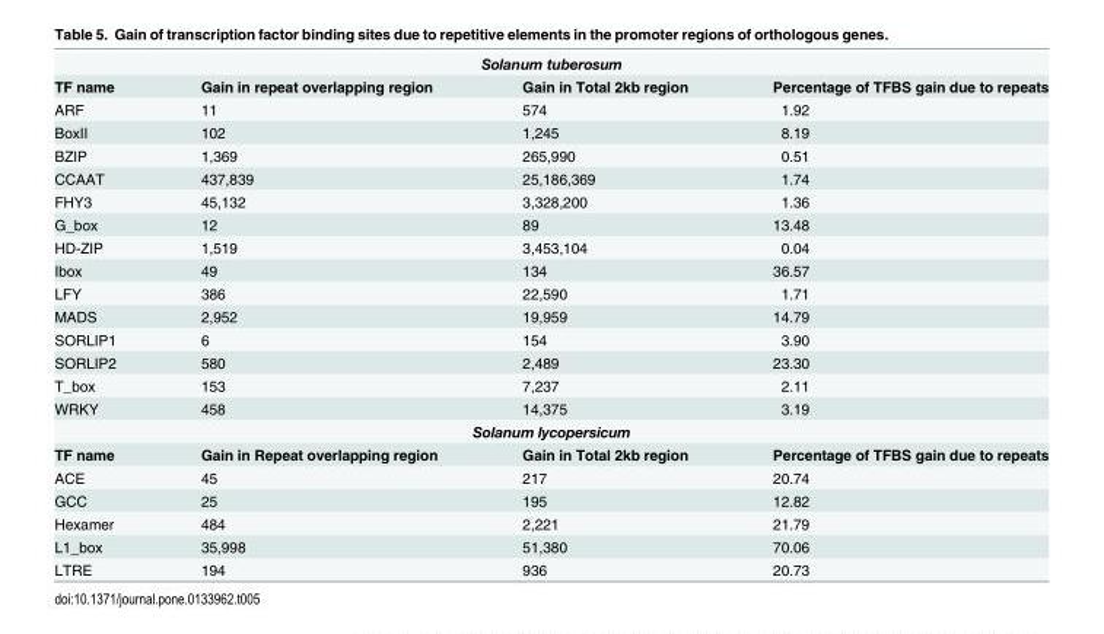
<table><tbody><tr><td colspan="4">Solanum tuberosum</td></tr><tr><td>TF name</td><td>Gain in repeat overlapping region</td><td>Gain in Total 2kb region</td><td>Percentage of TFBS gain due to repeats</td></tr><tr><td>ARF</td><td>11</td><td>574</td><td>1.92</td></tr><tr><td>BoxII</td><td>102</td><td>1,245</td><td>8.19</td></tr><tr><td>BZIP</td><td>1,369</td><td>265,990</td><td>0.51</td></tr><tr><td>CCAAT</td><td>437,839</td><td>25,186,369</td><td>1.74</td></tr><tr><td>FHY3</td><td>45,132</td><td>3,328,200</td><td>1.36</td></tr><tr><td>G_box</td><td>12</td><td>89</td><td>13.48</td></tr><tr><td>HD-ZIP</td><td>1,519</td><td>3,453,104</td><td>0.04</td></tr><tr><td>Ibox</td><td>49</td><td>134</td><td>36.57</td></tr><tr><td>LFY</td><td>386</td><td>22,590</td><td>1.71</td></tr><tr><td>MADS</td><td>2,952</td><td>19,959</td><td>14.79</td></tr><tr><td>SORLIP1</td><td>6</td><td>154</td><td>3.90</td></tr><tr><td>SORLIP2</td><td>580</td><td>2,489</td><td>23.30</td></tr><tr><td>T_box</td><td>153</td><td>7,237</td><td>2.11</td></tr><tr><td>WRKY</td><td>458</td><td>14,375</td><td>3.19</td></tr><tr><td colspan="4">Solanum lycopersicum</td></tr><tr><td>TF name</td><td>Gain in Repeat overlapping region</td><td>Gain in Total 2kb region</td><td>Percentage of TFBS gain due to repeats</td></tr><tr><td>ACE</td><td>45</td><td>217</td><td>20.74</td></tr><tr><td>GCC</td><td>25</td><td>195</td><td>12.82</td></tr><tr><td>Hexamer</td><td>484</td><td>2,221</td><td>21.79</td></tr><tr><td>L1_box</td><td>35,998</td><td>51,380</td><td>70.06</td></tr><tr><td>LTRE</td><td>194</td><td>936</td><td>20.73</td></tr></tbody></table>